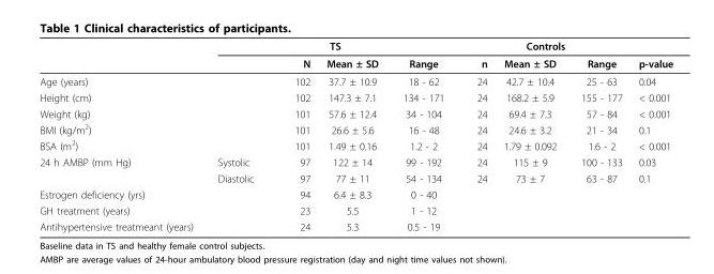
<table><thead><tr><td rowspan="2"></td><td colspan="4">TS</td><td colspan="3">Controls</td><td rowspan="2">p-value</td></tr><tr><td></td><td>N</td><td>Mean ± SD</td><td>Range</td><td>n</td><td>Mean ± SD</td><td>Range</td></tr></thead><tbody><tr><td>Age (years)</td><td></td><td>102</td><td>37.7 ± 10.9</td><td>18 - 62</td><td>24</td><td>42.7 ± 10.4</td><td>25 - 63</td><td>0.04</td></tr><tr><td>Height (cm)</td><td></td><td>102</td><td>147.3 ± 7.1</td><td>134 - 171</td><td>24</td><td>168.2 ± 5.9</td><td>155 - 177</td><td>&lt; 0.001</td></tr><tr><td>Weight (kg)</td><td></td><td>101</td><td>57.6 ± 12.4</td><td>34 - 104</td><td>24</td><td>69.4 ± 7.3</td><td>57 - 84</td><td>&lt; 0.001</td></tr><tr><td>BMI (kg/m<sup>2</sup>)</td><td></td><td>101</td><td>26.6 ± 5.6</td><td>16 - 48</td><td>24</td><td>24.6 ± 3.2</td><td>21 - 34</td><td>0.1</td></tr><tr><td>BSA (m<sup>2</sup>)</td><td></td><td>101</td><td>1.49 ± 0.16</td><td>1.2 - 2</td><td>24</td><td>1.79 ± 0.092</td><td>1.6 - 2</td><td>&lt; 0.001</td></tr><tr><td rowspan="2">24 h AMBP (mm Hg)</td><td>Systolic</td><td>97</td><td>122 ± 14</td><td>99 - 192</td><td>24</td><td>115 ± 9</td><td>100 - 133</td><td>0.03</td></tr><tr><td>Diastolic</td><td>97</td><td>77 ± 11</td><td>54 - 134</td><td>24</td><td>73 ± 7</td><td>63 - 87</td><td>0.1</td></tr><tr><td>Estrogen deficiency (yrs)</td><td></td><td>94</td><td>6.4 ± 8.3</td><td>0 - 40</td><td></td><td></td><td></td><td></td></tr><tr><td>GH treatment (years)</td><td></td><td>23</td><td>5.5</td><td>1 - 12</td><td></td><td></td><td></td><td></td></tr><tr><td>Antihypertensive treatmeant (years)</td><td></td><td>24</td><td>5.3</td><td>0.5 - 19</td><td></td><td></td><td></td><td></td></tr></tbody></table>